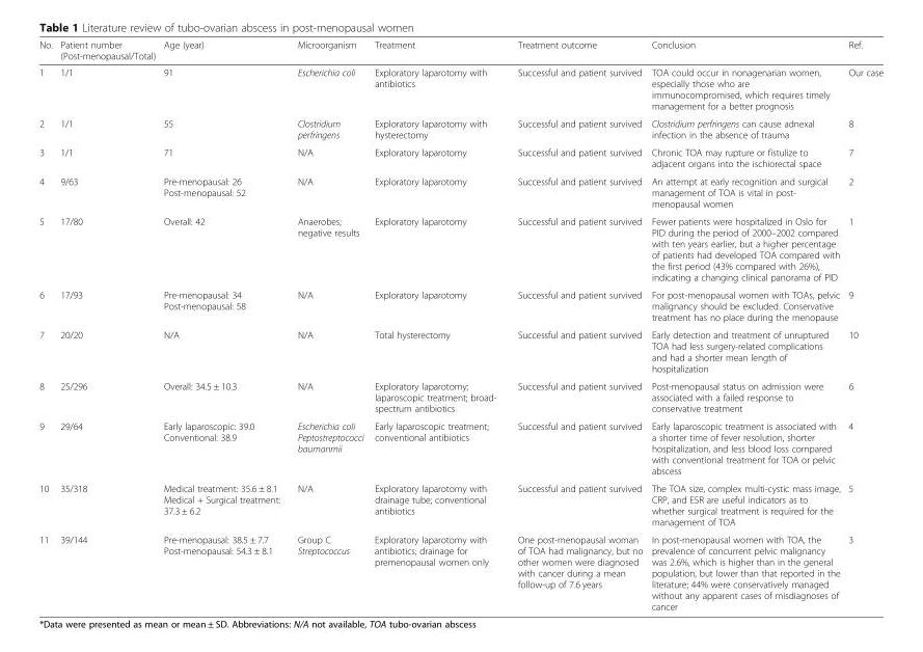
<table><thead><tr><td>No.</td><td>Patient number (Post-menopausal/Total)</td><td>Age (year)</td><td>Microorganism</td><td>Treatment</td><td>Treatment outcome</td><td>Conclusion</td><td>Ref.</td></tr></thead><tbody><tr><td>1</td><td>1/1</td><td>91</td><td>Escherichia coli</td><td>Exploratory laparotomy with antibiotics</td><td>Successful and patient survived</td><td>TOA could occur in nonagenarian women, especially those who are immunocompromised, which requires timely management for a better prognosis</td><td>Our case</td></tr><tr><td>2</td><td>1/1</td><td>55</td><td>Clostridium perfringens</td><td>Exploratory laparotomy with hysterectomy</td><td>Successful and patient survived</td><td>Clostridium perfringens can cause adnexal infection in the absence of trauma</td><td>8</td></tr><tr><td>3</td><td>1/1</td><td>71</td><td>N/A</td><td>Exploratory laparotomy</td><td>Successful and patient survived</td><td>Chronic TOA may rupture or fistulize to adjacent organs into the ischiorectal space</td><td>7</td></tr><tr><td>4</td><td>9/63</td><td>Pre-menopausal: 26 Post-menopausal: 52</td><td>N/A</td><td>Exploratory laparotomy</td><td>Successful and patient survived</td><td>An attempt at early recognition and surgical management of TOA is vital in post- menopausal women</td><td>2</td></tr><tr><td>5</td><td>17/80</td><td>Overall: 42</td><td>Anaerobes; negative results</td><td>Exploratory laparotomy</td><td>Successful and patient survived</td><td>Fewer patients were hospitalized in Oslo for PID during the period of 2000–2002 compared with ten years earlier, but a higher percentage of patients had developed TOA compared with the first period (43% compared with 26%), indicating a changing clinical panorama of PID</td><td>1</td></tr><tr><td>6</td><td>17/93</td><td>Pre-menopausal: 34 Post-menopausal: 58</td><td>N/A</td><td>Exploratory laparotomy</td><td>Successful and patient survived</td><td>For post-menopausal women with TOAs, pelvic malignancy should be excluded. Conservative treatment has no place during the menopause</td><td>9</td></tr><tr><td>7</td><td>20/20</td><td>N/A</td><td>N/A</td><td>Total hysterectomy</td><td>Successful and patient survived</td><td>Early detection and treatment of unruptured TOA had less surgery-related complications and had a shorter mean length of hospitalization</td><td>10</td></tr><tr><td>8</td><td>25/296</td><td>Overall: 34.5 ± 10.3</td><td>N/A</td><td>Exploratory laparotomy; laparoscopic treatment; broad- spectrum antibiotics</td><td>Successful and patient survived</td><td>Post-menopausal status on admission were associated with a failed response to conservative treatment</td><td>6</td></tr><tr><td>9</td><td>29/64</td><td>Early laparoscopic: 39.0 Conventional: 38.9</td><td>Escherichia coli Peptostreptococci baumanmii</td><td>Early laparoscopic treatment; conventional antibiotics</td><td>Successful and patient survived</td><td>Early laparoscopic treatment is associated with a shorter time of fever resolution, shorter hospitalization, and less blood loss compared with conventional treatment for TOA or pelvic abscess</td><td>4</td></tr><tr><td>10</td><td>35/318</td><td>Medical treatment: 35.6 ± 8.1 Medical + Surgical treatment: 37.3 ± 6.2</td><td>N/A</td><td>Exploratory laparotomy with drainage tube; conventional antibiotics</td><td>Successful and patient survived</td><td>The TOA size, complex multi-cystic mass image, CRP, and ESR are useful indicators as to whether surgical treatment is required for the management of TOA</td><td>5</td></tr><tr><td>11</td><td>39/144</td><td>Pre-menopausal: 38.5 ± 7.7 Post-menopausal: 54.3 ± 8.1</td><td>Group C Streptococcus</td><td>Exploratory laparotomy with antibiotics; drainage for premenopausal women only</td><td>One post-menopausal woman of TOA had malignancy, but no other women were diagnosed with cancer during a mean follow-up of 7.6 years</td><td>In post-menopausal women with TOA, the prevalence of concurrent pelvic malignancy was 2.6%, which is higher than in the general population, but lower than that reported in the literature; 44% were conservatively managed without any apparent cases of misdiagnoses of cancer</td><td>3</td></tr></tbody></table>